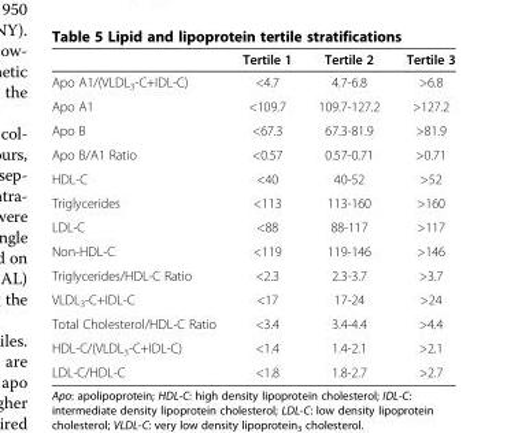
<table><thead><tr><td></td><td>Tertile 1</td><td>Tertile 2</td><td>Tertile 3</td></tr></thead><tbody><tr><td>Apo A1/(VLDL<sub>3</sub>-C+IDL-C)</td><td>&lt;4.7</td><td>4.7-6.8</td><td>&gt;6.8</td></tr><tr><td>Apo A1</td><td>&lt;109.7</td><td>109.7-127.2</td><td>&gt;127.2</td></tr><tr><td>Apo B</td><td>&lt;67.3</td><td>67.3-81.9</td><td>&gt;81.9</td></tr><tr><td>Apo B/A1 Ratio</td><td>&lt;0.57</td><td>0.57-0.71</td><td>&gt;0.71</td></tr><tr><td>HDL-C</td><td>&lt;40</td><td>40-52</td><td>&gt;52</td></tr><tr><td>Triglycerides</td><td>&lt;113</td><td>113-160</td><td>&gt;160</td></tr><tr><td>LDL-C</td><td>&lt;88</td><td>88-117</td><td>&gt;117</td></tr><tr><td>Non-HDL-C</td><td>&lt;119</td><td>119-146</td><td>&gt;146</td></tr><tr><td>Triglycerides/HDL-C Ratio</td><td>&lt;2.3</td><td>2.3-3.7</td><td>&gt;3.7</td></tr><tr><td>VLDL<sub>3</sub>-C+IDL-C</td><td>&lt;17</td><td>17-24</td><td>&gt;24</td></tr><tr><td>Total Cholesterol/HDL-C Ratio</td><td>&lt;3.4</td><td>3.4-4.4</td><td>&gt;4.4</td></tr><tr><td>HDL-C/(VLDL<sub>3</sub>-C+IDL-C)</td><td>&lt;1.4</td><td>1.4-2.1</td><td>&gt;2.1</td></tr><tr><td>LDL-C/HDL-C</td><td>&lt;1.8</td><td>1.8-2.7</td><td>&gt;2.7</td></tr></tbody></table>